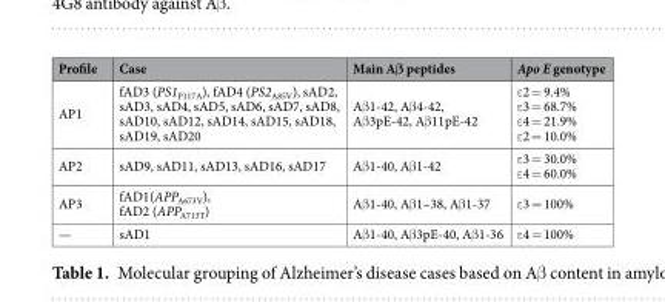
<table><thead><tr><td>Profile</td><td>Case</td><td>Main Aβ peptides</td><td>Apo E genotype</td></tr></thead><tbody><tr><td>AP1</td><td>fAD3 (PS1<sub>P117A</sub>), fAD4 (PS2<sub>A85V</sub>), sAD2, sAD3, sAD4, sAD5, sAD6, sAD7, sAD8, sAD10, sAD12, sAD14, sAD15, sAD18, sAD19, sAD20</td><td>Aβ1-42, Aβ4-42, Aβ3pE-42, Aβ11pE-42</td><td>ε2 = 9.4% ε3 = 68.7% ε4 = 21.9% ε2 = 10.0%</td></tr><tr><td>AP2</td><td>sAD9, sAD11, sAD13, sAD16, sAD17</td><td>Aβ1-40, Aβ1-42</td><td>ε3 = 30.0% ε4 = 60.0%</td></tr><tr><td>AP3</td><td>fAD1(APP<sub>A673V</sub>), fAD2 (APP<sub>A713T</sub>)</td><td>Aβ1-40, Aβ1–38, Aβ1-37</td><td>ε3 = 100%</td></tr><tr><td>—</td><td>sAD1</td><td>Aβ1-40, Aβ3pE-40, Aβ1-36</td><td>ε4 = 100%</td></tr></tbody></table>